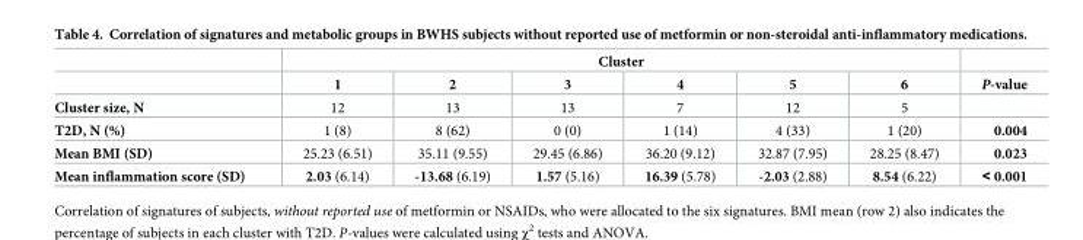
<table><thead><tr><td rowspan="2"></td><td colspan="6">Cluster</td><td rowspan="2">P-value</td></tr><tr><td>1</td><td>2</td><td>3</td><td>4</td><td>5</td><td>6</td></tr></thead><tbody><tr><td>Cluster size, N</td><td>12</td><td>13</td><td>13</td><td>7</td><td>12</td><td>5</td><td></td></tr><tr><td>T2D, N (%)</td><td>1 (8)</td><td>8 (62)</td><td>0 (0)</td><td>1 (14)</td><td>4 (33)</td><td>1 (20)</td><td>0.004</td></tr><tr><td>Mean BMI (SD)</td><td>25.23 (6.51)</td><td>35.11 (9.55)</td><td>29.45 (6.86)</td><td>36.20 (9.12)</td><td>32.87 (7.95)</td><td>28.25 (8.47)</td><td>0.023</td></tr><tr><td>Mean inflammation score (SD)</td><td>2.03 (6.14)</td><td>-13.68 (6.19)</td><td>1.57 (5.16)</td><td>16.39 (5.78)</td><td>-2.03 (2.88)</td><td>8.54 (6.22)</td><td>&lt; 0.001</td></tr></tbody></table>